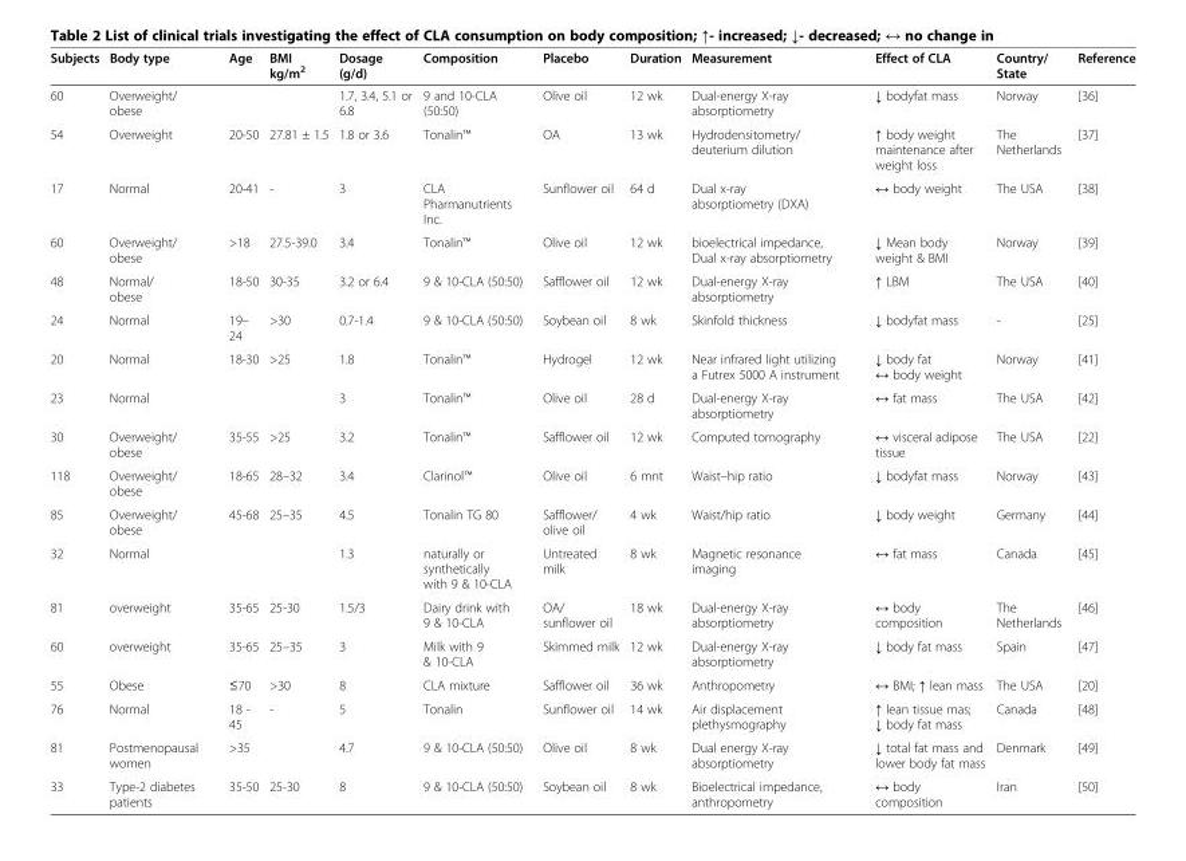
<table><thead><tr><td>Subjects</td><td>Body type</td><td>Age</td><td>BMI kg/m<sup>2</sup></td><td>Dosage (g/d)</td><td>Composition</td><td>Placebo</td><td>Duration</td><td>Measurement</td><td>Effect of CLA</td><td>Country/ State</td><td>Reference</td></tr></thead><tbody><tr><td>60</td><td>Overweight/ obese</td><td></td><td></td><td>1.7, 3.4, 5.1 or 6.8</td><td>9 and 10-CLA (50:50)</td><td>Olive oil</td><td>12 wk</td><td>Dual-energy X-ray absorptiometry</td><td>↓ bodyfat mass</td><td>Norway</td><td>[36]</td></tr><tr><td>54</td><td>Overweight</td><td>20-50</td><td>27.81 ± 1.5</td><td>1.8 or 3.6</td><td>Tonalin™</td><td>OA</td><td>13 wk</td><td>Hydrodensitometry/ deuterium dilution</td><td>↑ body weight maintenance after weight loss</td><td>The Netherlands</td><td>[37]</td></tr><tr><td>17</td><td>Normal</td><td>20-41</td><td>-</td><td>3</td><td>CLA Pharmanutrients Inc.</td><td>Sunflower oil</td><td>64 d</td><td>Dual x-ray absorptiometry (DXA)</td><td>↔ body weight</td><td>The USA</td><td>[38]</td></tr><tr><td>60</td><td>Overweight/ obese</td><td>&gt;18</td><td>27.5-39.0</td><td>3.4</td><td>Tonalin™</td><td>Olive oil</td><td>12 wk</td><td>bioelectrical impedance, Dual x-ray absorptiometry</td><td>↓ Mean body weight &amp; BMI</td><td>Norway</td><td>[39]</td></tr><tr><td>48</td><td>Normal/ obese</td><td>18-50</td><td>30-35</td><td>3.2 or 6.4</td><td>9 &amp; 10-CLA (50:50)</td><td>Safflower oil</td><td>12 wk</td><td>Dual-energy X-ray absorptiometry</td><td>↑ LBM</td><td>The USA</td><td>[40]</td></tr><tr><td>24</td><td>Normal</td><td>19– 24</td><td>&gt;30</td><td>0.7-1.4</td><td>9 &amp; 10-CLA (50:50)</td><td>Soybean oil</td><td>8 wk</td><td>Skinfold thickness</td><td>↓ bodyfat mass</td><td>-</td><td>[25]</td></tr><tr><td>20</td><td>Normal</td><td>18-30</td><td>&gt;25</td><td>1.8</td><td>Tonalin™</td><td>Hydrogel</td><td>12 wk</td><td>Near infrared light utilizing a Futrex 5000 A instrument</td><td>↓ body fat ↔ body weight</td><td>Norway</td><td>[41]</td></tr><tr><td>23</td><td>Normal</td><td></td><td></td><td>3</td><td>Tonalin™</td><td>Olive oil</td><td>28 d</td><td>Dual-energy X-ray absorptiometry</td><td>↔ fat mass</td><td>The USA</td><td>[42]</td></tr><tr><td>30</td><td>Overweight/ obese</td><td>35-55</td><td>&gt;25</td><td>3.2</td><td>Tonalin™</td><td>Safflower oil</td><td>12 wk</td><td>Computed tomography</td><td>↔ visceral adipose tissue</td><td>The USA</td><td>[22]</td></tr><tr><td>118</td><td>Overweight/ obese</td><td>18-65</td><td>28–32</td><td>3.4</td><td>Clarinol™</td><td>Olive oil</td><td>6 mnt</td><td>Waist–hip ratio</td><td>↓ bodyfat mass</td><td>Norway</td><td>[43]</td></tr><tr><td>85</td><td>Overweight/ obese</td><td>45-68</td><td>25–35</td><td>4.5</td><td>Tonalin TG 80</td><td>Safflower/ olive oil</td><td>4 wk</td><td>Waist/hip ratio</td><td>↓ body weight</td><td>Germany</td><td>[44]</td></tr><tr><td>32</td><td>Normal</td><td></td><td></td><td>1.3</td><td>naturally or synthetically with 9 &amp; 10-CLA</td><td>Untreated milk</td><td>8 wk</td><td>Magnetic resonance imaging</td><td>↔ fat mass</td><td>Canada</td><td>[45]</td></tr><tr><td>81</td><td>overweight</td><td>35-65</td><td>25-30</td><td>1.5/3</td><td>Dairy drink with 9 &amp; 10-CLA</td><td>OA/ sunflower oil</td><td>18 wk</td><td>Dual-energy X-ray absorptiometry</td><td>↔ body composition</td><td>The Netherlands</td><td>[46]</td></tr><tr><td>60</td><td>overweight</td><td>35-65</td><td>25–35</td><td>3</td><td>Milk with 9 &amp; 10-CLA</td><td>Skimmed milk</td><td>12 wk</td><td>Dual-energy X-ray absorptiometry</td><td>↓ body fat mass</td><td>Spain</td><td>[47]</td></tr><tr><td>55</td><td>Obese</td><td>≤70</td><td>&gt;30</td><td>8</td><td>CLA mixture</td><td>Safflower oil</td><td>36 wk</td><td>Anthropometry</td><td>↔ BMI; ↑ lean mass</td><td>The USA</td><td>[20]</td></tr><tr><td>76</td><td>Normal</td><td>18 - 45</td><td>-</td><td>5</td><td>Tonalin</td><td>Sunflower oil</td><td>14 wk</td><td>Air displacement plethysmography</td><td>↑ lean tissue mas; ↓ body fat mass</td><td>Canada</td><td>[48]</td></tr><tr><td>81</td><td>Postmenopausal women</td><td>&gt;35</td><td></td><td>4.7</td><td>9 &amp; 10-CLA (50:50)</td><td>Olive oil</td><td>8 wk</td><td>Dual energy X-ray absorptiometry</td><td>↓ total fat mass and lower body fat mass</td><td>Denmark</td><td>[49]</td></tr><tr><td>33</td><td>Type-2 diabetes patients</td><td>35-50</td><td>25-30</td><td>8</td><td>9 &amp; 10-CLA (50:50)</td><td>Soybean oil</td><td>8 wk</td><td>Bioelectrical impedance, anthropometry</td><td>↔ body composition</td><td>Iran</td><td>[50]</td></tr></tbody></table>